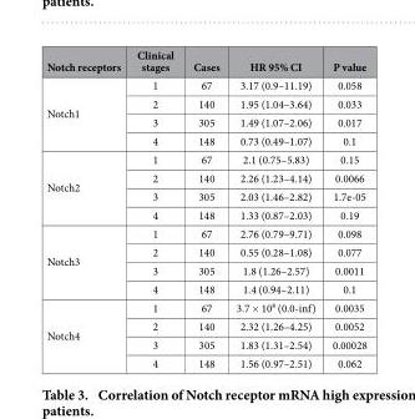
<table><thead><tr><td>Notch receptors</td><td>Clinical stages</td><td>Cases</td><td>HR 95% CI</td><td>P value</td></tr></thead><tbody><tr><td rowspan="4">Notch1</td><td>1</td><td>67</td><td>3.17 (0.9–11.19)</td><td>0.058</td></tr><tr><td>2</td><td>140</td><td>1.95 (1.04–3.64)</td><td>0.033</td></tr><tr><td>3</td><td>305</td><td>1.49 (1.07–2.06)</td><td>0.017</td></tr><tr><td>4</td><td>148</td><td>0.73 (0.49–1.07)</td><td>0.1</td></tr><tr><td rowspan="4">Notch2</td><td>1</td><td>67</td><td>2.1 (0.75–5.83)</td><td>0.15</td></tr><tr><td>2</td><td>140</td><td>2.26 (1.23–4.14)</td><td>0.0066</td></tr><tr><td>3</td><td>305</td><td>2.03 (1.46–2.82)</td><td>1.7e-05</td></tr><tr><td>4</td><td>148</td><td>1.33 (0.87–2.03)</td><td>0.19</td></tr><tr><td rowspan="4">Notch3</td><td>1</td><td>67</td><td>2.76 (0.79–9.71)</td><td>0.098</td></tr><tr><td>2</td><td>140</td><td>0.55 (0.28–1.08)</td><td>0.077</td></tr><tr><td>3</td><td>305</td><td>1.8 (1.26–2.57)</td><td>0.0011</td></tr><tr><td>4</td><td>148</td><td>1.4 (0.94–2.11)</td><td>0.1</td></tr><tr><td rowspan="4">Notch4</td><td>1</td><td>67</td><td>3.7 × 10<sup>8</sup> (0.0-inf)</td><td>0.0035</td></tr><tr><td>2</td><td>140</td><td>2.32 (1.26–4.25)</td><td>0.0052</td></tr><tr><td>3</td><td>305</td><td>1.83 (1.31–2.54)</td><td>0.00028</td></tr><tr><td>4</td><td>148</td><td>1.56 (0.97–2.51)</td><td>0.062</td></tr></tbody></table>